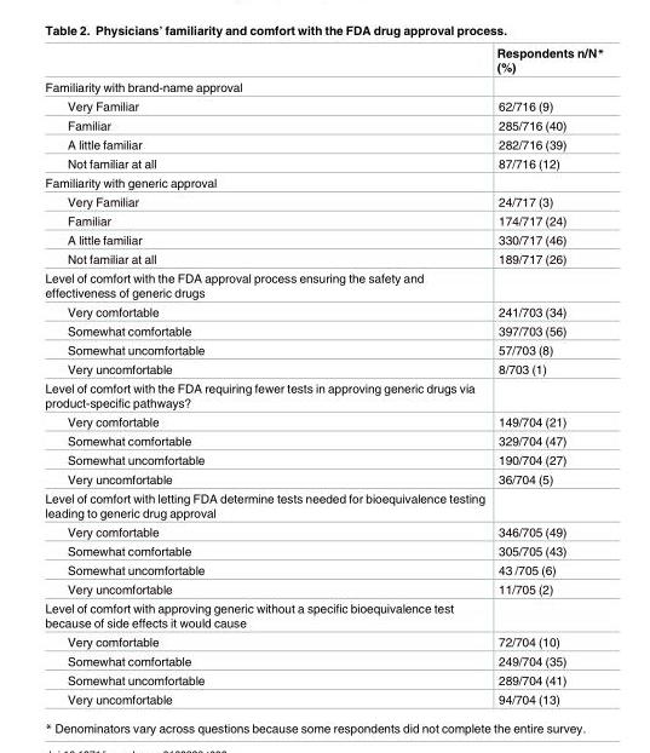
<table><thead><tr><td></td><td>Respondents n/N* (%)</td></tr></thead><tbody><tr><td colspan="2">Familiarity with brand-name approval</td></tr><tr><td>Very Familiar</td><td>62/716 (9)</td></tr><tr><td>Familiar</td><td>285/716 (40)</td></tr><tr><td>A little familiar</td><td>282/716 (39)</td></tr><tr><td>Not familiar at all</td><td>87/716 (12)</td></tr><tr><td colspan="2">Familiarity with generic approval</td></tr><tr><td>Very Familiar</td><td>24/717 (3)</td></tr><tr><td>Familiar</td><td>174/717 (24)</td></tr><tr><td>A little familiar</td><td>330/717 (46)</td></tr><tr><td>Not familiar at all</td><td>189/717 (26)</td></tr><tr><td colspan="2">Level of comfort with the FDA approval process ensuring the safety and effectiveness of generic drugs</td></tr><tr><td>Very comfortable</td><td>241/703 (34)</td></tr><tr><td>Somewhat comfortable</td><td>397/703 (56)</td></tr><tr><td>Somewhat uncomfortable</td><td>57/703 (8)</td></tr><tr><td>Very uncomfortable</td><td>8/703 (1)</td></tr><tr><td colspan="2">Level of comfort with the FDA requiring fewer tests in approving generic drugs via product-specific pathways?</td></tr><tr><td>Very comfortable</td><td>149/704 (21)</td></tr><tr><td>Somewhat comfortable</td><td>329/704 (47)</td></tr><tr><td>Somewhat uncomfortable</td><td>190/704 (27)</td></tr><tr><td>Very uncomfortable</td><td>36/704 (5)</td></tr><tr><td colspan="2">Level of comfort with letting FDA determine tests needed for bioequivalence testing leading to generic drug approval</td></tr><tr><td>Very comfortable</td><td>346/705 (49)</td></tr><tr><td>Somewhat comfortable</td><td>305/705 (43)</td></tr><tr><td>Somewhat uncomfortable</td><td>43 /705 (6)</td></tr><tr><td>Very uncomfortable</td><td>11/705 (2)</td></tr><tr><td colspan="2">Level of comfort with approving generic without a specific bioequivalence test because of side effects it would cause</td></tr><tr><td>Very comfortable</td><td>72/704 (10)</td></tr><tr><td>Somewhat comfortable</td><td>249/704 (35)</td></tr><tr><td>Somewhat uncomfortable</td><td>289/704 (41)</td></tr><tr><td>Very uncomfortable</td><td>94/704 (13)</td></tr></tbody></table>